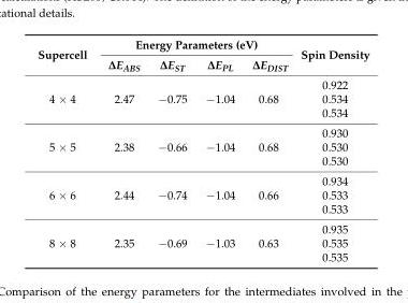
<table><thead><tr><td rowspan="2">Supercell</td><td colspan="4">Energy Parameters (eV)</td><td rowspan="2">Spin Density</td></tr><tr><td>∆EABS</td><td>∆EST</td><td>∆EPL</td><td>∆EDIST</td></tr></thead><tbody><tr><td>4 × 4</td><td>2.47</td><td>−0.75</td><td>−1.04</td><td>0.68</td><td>0.922 0.534 0.534</td></tr><tr><td>5 × 5</td><td>2.38</td><td>−0.66</td><td>−1.04</td><td>0.68</td><td>0.930 0.530 0.530</td></tr><tr><td>6 × 6</td><td>2.44</td><td>−0.74</td><td>−1.04</td><td>0.66</td><td>0.934 0.533 0.533</td></tr><tr><td>8 × 8</td><td>2.35</td><td>−0.69</td><td>−1.03</td><td>0.63</td><td>0.935 0.535 0.535</td></tr></tbody></table>